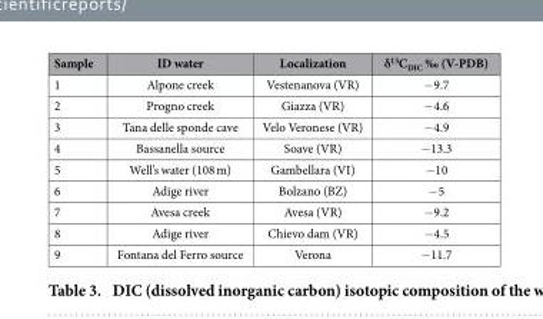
<table><thead><tr><td>Sample</td><td>ID water</td><td>Localization</td><td>δ<sup>13</sup>C<sub>DIC</sub> ‰ (V-PDB)</td></tr></thead><tbody><tr><td>1</td><td>Alpone creek</td><td>Vestenanova (VR)</td><td>− 9.7</td></tr><tr><td>2</td><td>Progno creek</td><td>Giazza (VR)</td><td>− 4.6</td></tr><tr><td>3</td><td>Tana delle sponde cave</td><td>Velo Veronese (VR)</td><td>− 4.9</td></tr><tr><td>4</td><td>Bassanella source</td><td>Soave (VR)</td><td>− 13.3</td></tr><tr><td>5</td><td>Well’s water (108 m)</td><td>Gambellara (VI)</td><td>− 10</td></tr><tr><td>6</td><td>Adige river</td><td>Bolzano (BZ)</td><td>− 5</td></tr><tr><td>7</td><td>Avesa creek</td><td>Avesa (VR)</td><td>− 9.2</td></tr><tr><td>8</td><td>Adige river</td><td>Chievo dam (VR)</td><td>− 4.5</td></tr><tr><td>9</td><td>Fontana del Ferro source</td><td>Verona</td><td>− 11.7</td></tr></tbody></table>